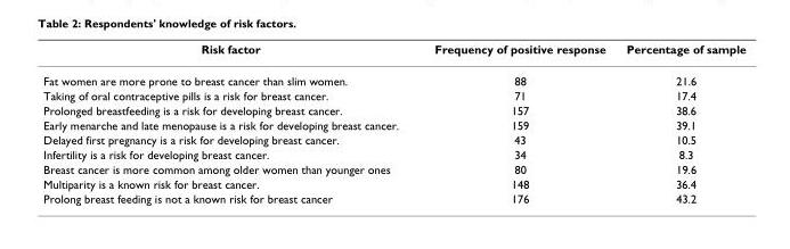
<table><thead><tr><td>Risk factor</td><td>Frequency of positive response</td><td>Percentage of sample</td></tr></thead><tbody><tr><td>Fat women are more prone to breast cancer than slim women.</td><td>88</td><td>21.6</td></tr><tr><td>Taking of oral contraceptive pills is a risk for breast cancer.</td><td>71</td><td>17.4</td></tr><tr><td>Prolonged breastfeeding is a risk for developing breast cancer.</td><td>157</td><td>38.6</td></tr><tr><td>Early menarche and late menopause is a risk for developing breast cancer.</td><td>159</td><td>39.1</td></tr><tr><td>Delayed first pregnancy is a risk for developing breast cancer.</td><td>43</td><td>10.5</td></tr><tr><td>Infertility is a risk for developing breast cancer.</td><td>34</td><td>8.3</td></tr><tr><td>Breast cancer is more common among older women than younger ones</td><td>80</td><td>19.6</td></tr><tr><td>Multiparity is a known risk for breast cancer.</td><td>148</td><td>36.4</td></tr><tr><td>Prolong breast feeding is not a known risk for breast cancer</td><td>176</td><td>43.2</td></tr></tbody></table>